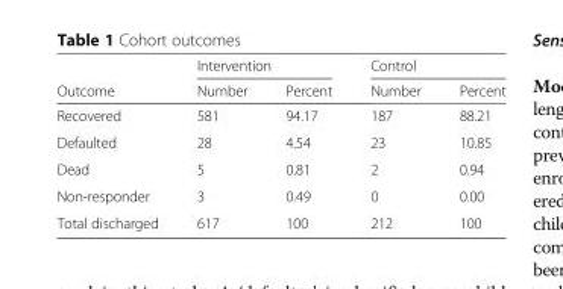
<table><thead><tr><td rowspan="2">Outcome</td><td colspan="2">Intervention</td><td colspan="2">Control</td></tr><tr><td>Number</td><td>Percent</td><td>Number</td><td>Percent</td></tr></thead><tbody><tr><td>Recovered</td><td>581</td><td>94.17</td><td>187</td><td>88.21</td></tr><tr><td>Defaulted</td><td>28</td><td>4.54</td><td>23</td><td>10.85</td></tr><tr><td>Dead</td><td>5</td><td>0.81</td><td>2</td><td>0.94</td></tr><tr><td>Non-responder</td><td>3</td><td>0.49</td><td>0</td><td>0.00</td></tr><tr><td>Total discharged</td><td>617</td><td>100</td><td>212</td><td>100</td></tr></tbody></table>